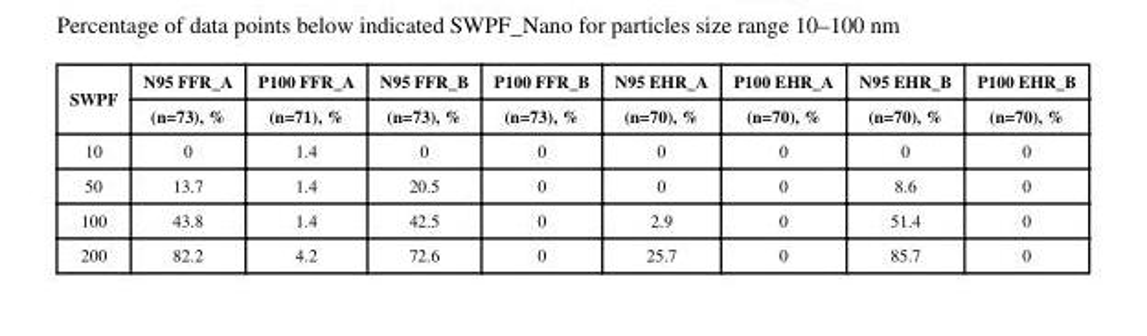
<table><thead><tr><td rowspan="2">SWPF</td><td rowspan="2">N95 FFR_A (n=73), %</td><td rowspan="2">P100 FFR_A (n=71), %</td><td rowspan="2">N95 FFR_B (n=73), %</td><td rowspan="2">P100 FFR_B (n=73), %</td><td rowspan="2">N95 EHR_A (n=70), %</td><td rowspan="2">P100 EHR_A (n=70), %</td><td rowspan="2">N95 EHR_B (n=70), %</td><td rowspan="2">P100 EHR_B (n=70), %</td></tr><tr></tr></thead><tbody><tr><td>10</td><td>0</td><td>1.4</td><td>0</td><td>0</td><td>0</td><td>0</td><td>0</td><td>0</td></tr><tr><td>50</td><td>13.7</td><td>1.4</td><td>20.5</td><td>0</td><td>0</td><td>0</td><td>8.6</td><td>0</td></tr><tr><td>100</td><td>43.8</td><td>1.4</td><td>42.5</td><td>0</td><td>2.9</td><td>0</td><td>51.4</td><td>0</td></tr><tr><td>200</td><td>82.2</td><td>4.2</td><td>72.6</td><td>0</td><td>25.7</td><td>0</td><td>85.7</td><td>0</td></tr></tbody></table>